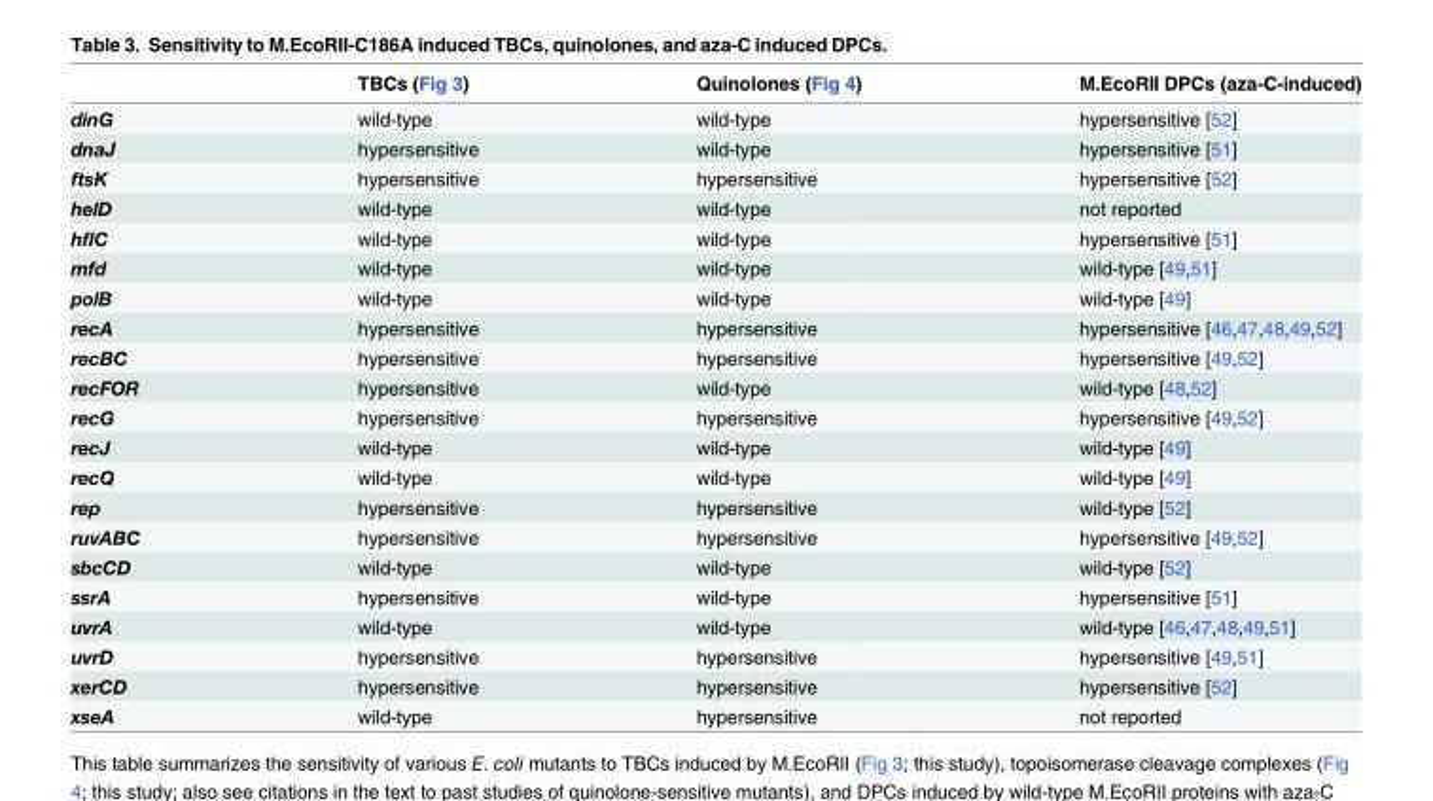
<table><thead><tr><td></td><td>TBCs (Fig 3)</td><td>Quinolones (Fig 4)</td><td>M.EcoRII DPCs (aza-C-induced)</td></tr></thead><tbody><tr><td>dinG</td><td>wild-type</td><td>wild-type</td><td>hypersensitive [52]</td></tr><tr><td>dnaJ</td><td>hypersensitive</td><td>wild-type</td><td>hypersensitive [51]</td></tr><tr><td>ftsK</td><td>hypersensitive</td><td>hypersensitive</td><td>hypersensitive [52]</td></tr><tr><td>helD</td><td>wild-type</td><td>wild-type</td><td>not reported</td></tr><tr><td>hflC</td><td>wild-type</td><td>wild-type</td><td>hypersensitive [51]</td></tr><tr><td>mfd</td><td>wild-type</td><td>wild-type</td><td>wild-type [49,51]</td></tr><tr><td>polB</td><td>wild-type</td><td>wild-type</td><td>wild-type [49]</td></tr><tr><td>recA</td><td>hypersensitive</td><td>hypersensitive</td><td>hypersensitive [46,47,48,49,52]</td></tr><tr><td>recBC</td><td>hypersensitive</td><td>hypersensitive</td><td>hypersensitive [49,52]</td></tr><tr><td>recFOR</td><td>hypersensitive</td><td>wild-type</td><td>wild-type [48,52]</td></tr><tr><td>recG</td><td>hypersensitive</td><td>hypersensitive</td><td>hypersensitive [49,52]</td></tr><tr><td>recJ</td><td>wild-type</td><td>wild-type</td><td>wild-type [49]</td></tr><tr><td>recQ</td><td>wild-type</td><td>wild-type</td><td>wild-type [49]</td></tr><tr><td>rep</td><td>hypersensitive</td><td>hypersensitive</td><td>wild-type [52]</td></tr><tr><td>ruvABC</td><td>hypersensitive</td><td>hypersensitive</td><td>hypersensitive [49,52]</td></tr><tr><td>sbcCD</td><td>wild-type</td><td>wild-type</td><td>wild-type [52]</td></tr><tr><td>ssrA</td><td>hypersensitive</td><td>wild-type</td><td>hypersensitive [51]</td></tr><tr><td>uvrA</td><td>wild-type</td><td>wild-type</td><td>wild-type [46,47,48,49,51]</td></tr><tr><td>uvrD</td><td>hypersensitive</td><td>hypersensitive</td><td>hypersensitive [49,51]</td></tr><tr><td>xerCD</td><td>hypersensitive</td><td>hypersensitive</td><td>hypersensitive [52]</td></tr><tr><td>xseA</td><td>wild-type</td><td>hypersensitive</td><td>not reported</td></tr></tbody></table>